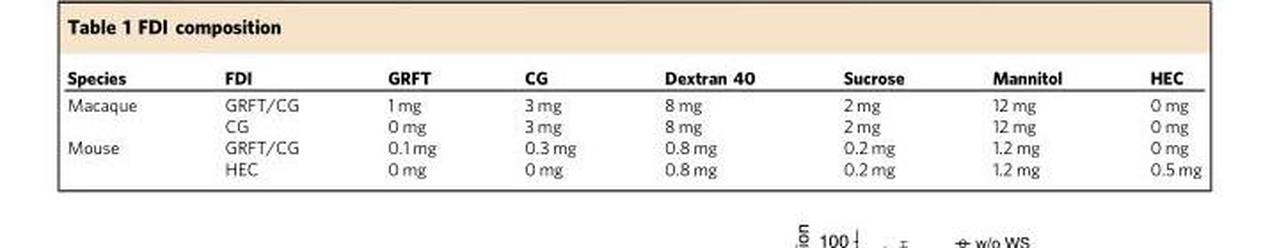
<table><thead><tr><td>Species</td><td>FDI</td><td>GRFT</td><td>CG</td><td>Dextran 40</td><td>Sucrose</td><td>Mannitol</td><td>HEC</td></tr></thead><tbody><tr><td rowspan="2">Macaque</td><td>GRFT/CG</td><td>1 mg</td><td>3 mg</td><td>8 mg</td><td>2 mg</td><td>12 mg</td><td>0 mg</td></tr><tr><td>CG</td><td>0 mg</td><td>3 mg</td><td>8 mg</td><td>2 mg</td><td>12 mg</td><td>0 mg</td></tr><tr><td rowspan="2">Mouse</td><td>GRFT/CG</td><td>0.1 mg</td><td>0.3 mg</td><td>0.8 mg</td><td>0.2 mg</td><td>1.2 mg</td><td>0 mg</td></tr><tr><td>HEC</td><td>0 mg</td><td>0 mg</td><td>0.8 mg</td><td>0.2 mg</td><td>1.2 mg</td><td>0.5 mg</td></tr></tbody></table>